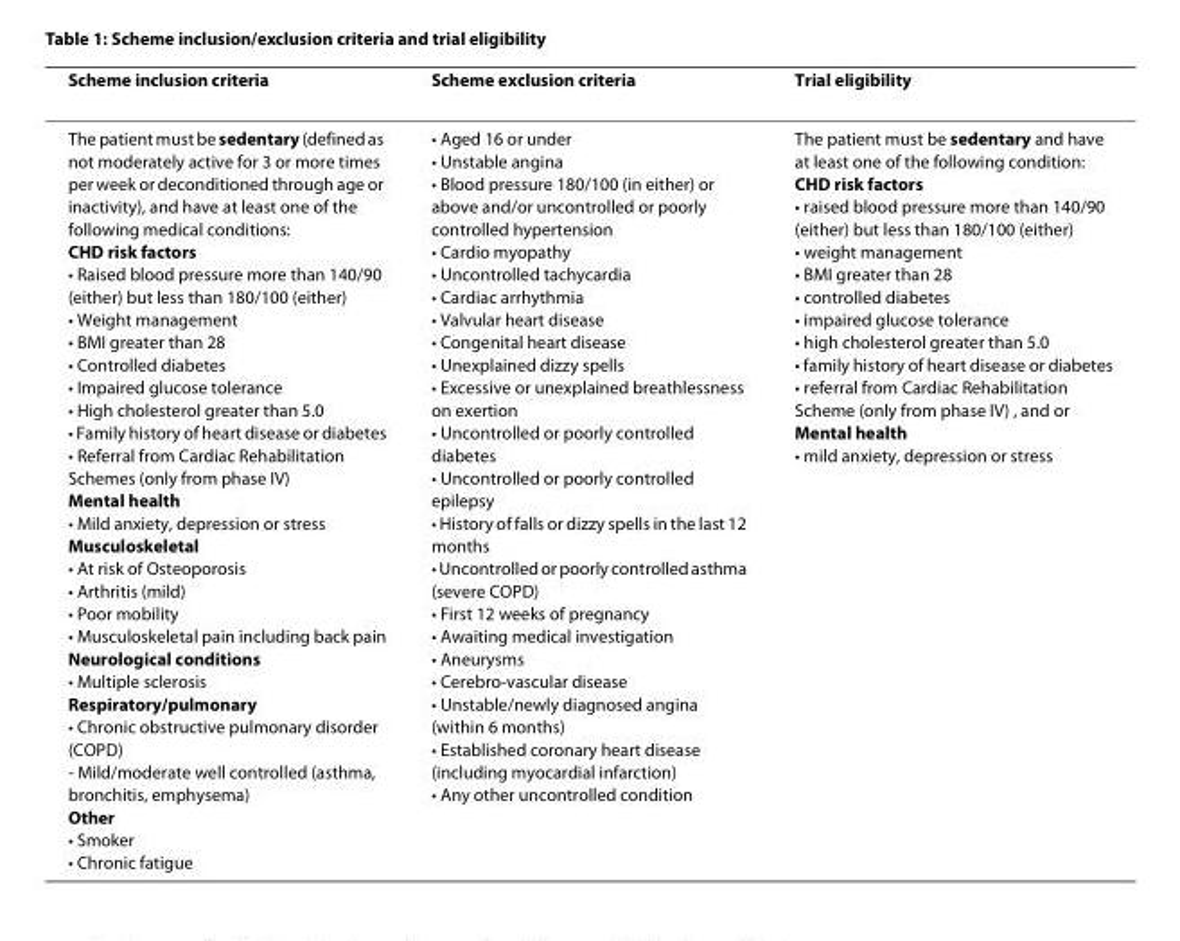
<table><thead><tr><td>Scheme inclusion criteria</td><td>Scheme exclusion criteria</td><td>Trial eligibility</td></tr></thead><tbody><tr><td>The patient must be sedentary (defined as not moderately active for 3 or more times per week or deconditioned through age or inactivity), and have at least one of the following medical conditions: CHD risk factors • Raised blood pressure more than 140/90 (either) but less than 180/100 (either) • Weight management • BMI greater than 28 • Controlled diabetes • Impaired glucose tolerance • High cholesterol greater than 5.0 • Family history of heart disease or diabetes • Referral from Cardiac Rehabilitation Schemes (only from phase IV) Mental health • Mild anxiety, depression or stress Musculoskeletal • At risk of Osteoporosis • Arthritis (mild) • Poor mobility • Musculoskeletal pain including back pain Neurological conditions • Multiple sclerosis Respiratory/pulmonary • Chronic obstructive pulmonary disorder (COPD) - Mild/moderate well controlled (asthma, bronchitis, emphysema) Other • Smoker • Chronic fatigue</td><td>• Aged 16 or under • Unstable angina • Blood pressure 180/100 (in either) or above and/or uncontrolled or poorly controlled hypertension • Cardio myopathy • Uncontrolled tachycardia • Cardiac arrhythmia • Valvular heart disease • Congenital heart disease • Unexplained dizzy spells • Excessive or unexplained breathlessness on exertion • Uncontrolled or poorly controlled diabetes • Uncontrolled or poorly controlled epilepsy • History of falls or dizzy spells in the last 12 months • Uncontrolled or poorly controlled asthma (severe COPD) • First 12 weeks of pregnancy • Awaiting medical investigation • Aneurysms • Cerebro-vascular disease • Unstable/newly diagnosed angina (within 6 months) • Established coronary heart disease (including myocardial infarction) • Any other uncontrolled condition</td><td>The patient must be sedentary and have at least one of the following condition: CHD risk factors • raised blood pressure more than 140/90 (either) but less than 180/100 (either) • weight management • BMI greater than 28 • controlled diabetes • impaired glucose tolerance • high cholesterol greater than 5.0 • family history of heart disease or diabetes • referral from Cardiac Rehabilitation Scheme (only from phase IV) , and or Mental health • mild anxiety, depression or stress</td></tr></tbody></table>